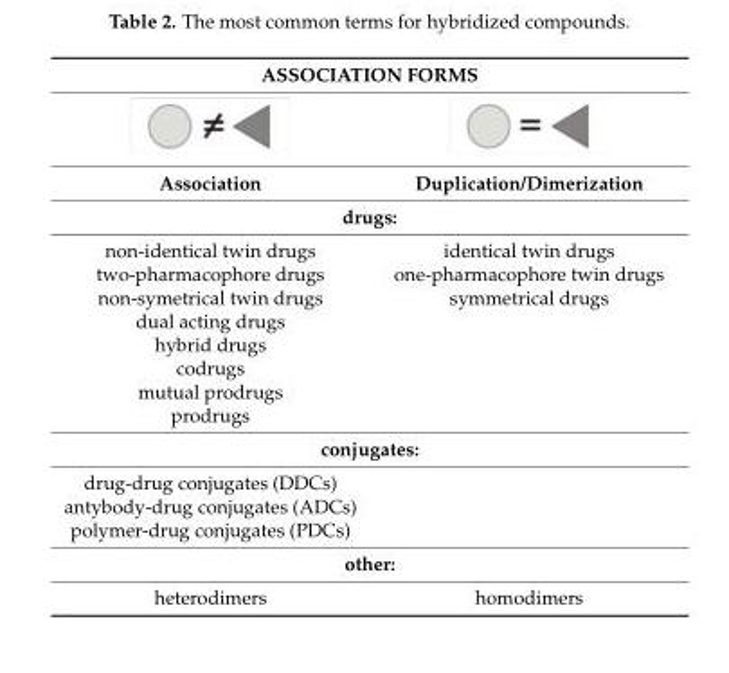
<table><thead><tr><td colspan="2">ASSOCIATION FORMS</td></tr><tr><td>Association</td><td>Duplication/Dimerization</td></tr></thead><tbody><tr><td colspan="2">drugs:</td></tr><tr><td>non-identical twin drugs</td><td>identical twin drugs</td></tr><tr><td>two-pharmacophore drugs</td><td>one-pharmacophore twin drugs</td></tr><tr><td>non-symetrical twin drugs</td><td>symmetrical drugs</td></tr><tr><td>dual acting drugs</td><td rowspan="5"></td></tr><tr><td>hybrid drugs</td></tr><tr><td>codrugs</td></tr><tr><td>mutual prodrugs</td></tr><tr><td>prodrugs</td></tr><tr><td colspan="2">conjugates:</td></tr><tr><td>drug-drug conjugates (DDCs)</td><td rowspan="3"></td></tr><tr><td>antybody-drug conjugates (ADCs)</td></tr><tr><td>polymer-drug conjugates (PDCs)</td></tr><tr><td colspan="2">other:</td></tr><tr><td>heterodimers</td><td>homodimers</td></tr></tbody></table>